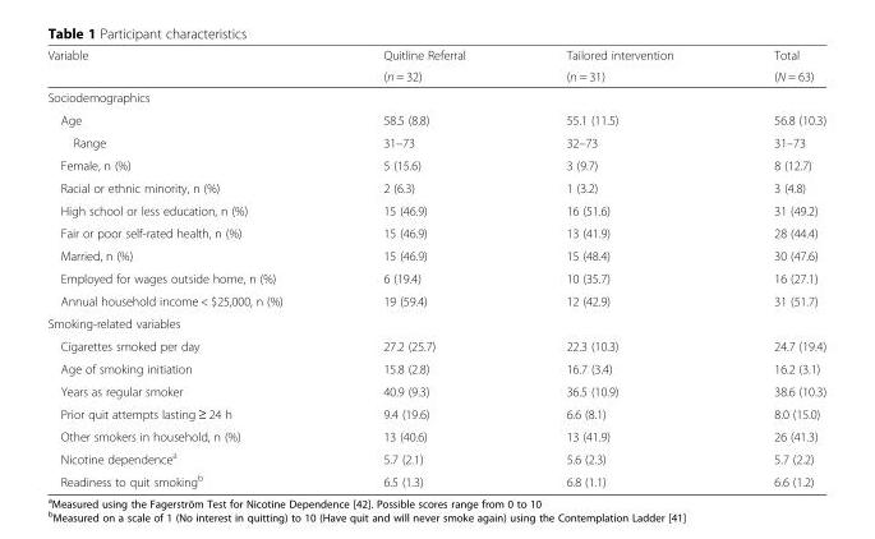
<table><thead><tr><td rowspan="2">Variable</td><td rowspan="2">Quitline Referral (n = 32)</td><td rowspan="2">Tailored intervention (n = 31)</td><td rowspan="2">Total (N = 63)</td></tr><tr></tr></thead><tbody><tr><td colspan="4">Sociodemographics</td></tr><tr><td>Age</td><td>58.5 (8.8)</td><td>55.1 (11.5)</td><td>56.8 (10.3)</td></tr><tr><td>Range</td><td>31–73</td><td>32–73</td><td>31–73</td></tr><tr><td>Female, n (%)</td><td>5 (15.6)</td><td>3 (9.7)</td><td>8 (12.7)</td></tr><tr><td>Racial or ethnic minority, n (%)</td><td>2 (6.3)</td><td>1 (3.2)</td><td>3 (4.8)</td></tr><tr><td>High school or less education, n (%)</td><td>15 (46.9)</td><td>16 (51.6)</td><td>31 (49.2)</td></tr><tr><td>Fair or poor self-rated health, n (%)</td><td>15 (46.9)</td><td>13 (41.9)</td><td>28 (44.4)</td></tr><tr><td>Married, n (%)</td><td>15 (46.9)</td><td>15 (48.4)</td><td>30 (47.6)</td></tr><tr><td>Employed for wages outside home, n (%)</td><td>6 (19.4)</td><td>10 (35.7)</td><td>16 (27.1)</td></tr><tr><td>Annual household income &lt; $25,000, n (%)</td><td>19 (59.4)</td><td>12 (42.9)</td><td>31 (51.7)</td></tr><tr><td colspan="4">Smoking-related variables</td></tr><tr><td>Cigarettes smoked per day</td><td>27.2 (25.7)</td><td>22.3 (10.3)</td><td>24.7 (19.4)</td></tr><tr><td>Age of smoking initiation</td><td>15.8 (2.8)</td><td>16.7 (3.4)</td><td>16.2 (3.1)</td></tr><tr><td>Years as regular smoker</td><td>40.9 (9.3)</td><td>36.5 (10.9)</td><td>38.6 (10.3)</td></tr><tr><td>Prior quit attempts lasting ≥ 24 h</td><td>9.4 (19.6)</td><td>6.6 (8.1)</td><td>8.0 (15.0)</td></tr><tr><td>Other smokers in household, n (%)</td><td>13 (40.6)</td><td>13 (41.9)</td><td>26 (41.3)</td></tr><tr><td>Nicotine dependence<sup>a</sup></td><td>5.7 (2.1)</td><td>5.6 (2.3)</td><td>5.7 (2.2)</td></tr><tr><td>Readiness to quit smoking<sup>b</sup></td><td>6.5 (1.3)</td><td>6.8 (1.1)</td><td>6.6 (1.2)</td></tr></tbody></table>